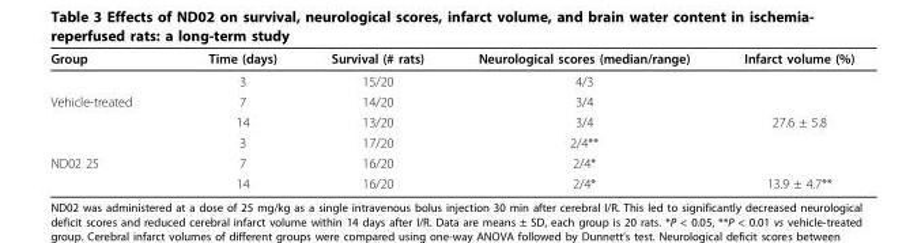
<table><thead><tr><td>Group</td><td>Time (days)</td><td>Survival (# rats)</td><td>Neurological scores (median/range)</td><td>Infarct volume (%)</td></tr></thead><tbody><tr><td></td><td>3</td><td>15/20</td><td>4/3</td><td></td></tr><tr><td rowspan="3">Vehicle-treated</td><td>7</td><td>14/20</td><td>3/4</td><td></td></tr><tr><td>14</td><td>13/20</td><td>3/4</td><td>27.6 ± 5.8</td></tr><tr><td>3</td><td>17/20</td><td>2/4**</td><td></td></tr><tr><td rowspan="2">ND02 25</td><td>7</td><td>16/20</td><td>2/4*</td><td></td></tr><tr><td>14</td><td>16/20</td><td>2/4*</td><td>13.9 ± 4.7**</td></tr></tbody></table>